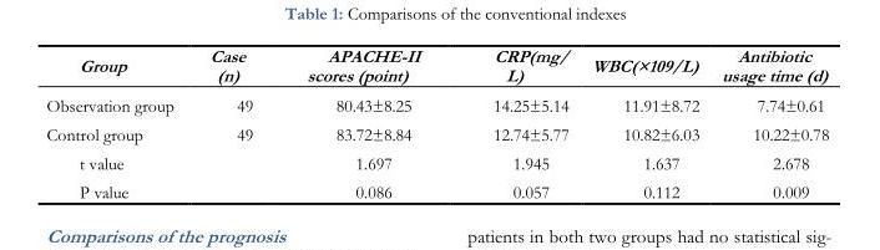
<table><thead><tr><td>Group</td><td>Case (n)</td><td>APACHE-II scores (point)</td><td>CRP(mg/ L)</td><td>WBC(×109/L)</td><td>Antibiotic usage time (d)</td></tr></thead><tbody><tr><td>Observation group</td><td>49</td><td>80.43±8.25</td><td>14.25±5.14</td><td>11.91±8.72</td><td>7.74±0.61</td></tr><tr><td>Control group</td><td>49</td><td>83.72±8.84</td><td>12.74±5.77</td><td>10.82±6.03</td><td>10.22±0.78</td></tr><tr><td>t value</td><td></td><td>1.697</td><td>1.945</td><td>1.637</td><td>2.678</td></tr><tr><td>P value</td><td></td><td>0.086</td><td>0.057</td><td>0.112</td><td>0.009</td></tr></tbody></table>